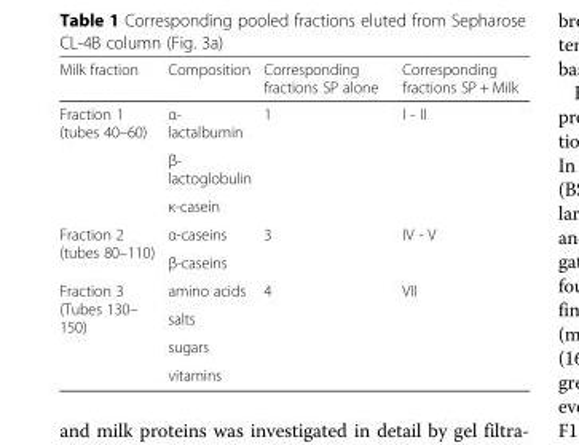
<table><thead><tr><td>Milk fraction</td><td>Composition</td><td>Corresponding fractions SP alone</td><td>Corresponding fractions SP + Milk</td></tr></thead><tbody><tr><td rowspan="3">Fraction 1 (tubes 40–60)</td><td>α- lactalbumin</td><td rowspan="3">1</td><td rowspan="3">I - II</td></tr><tr><td>β- lactoglobulin</td></tr><tr><td>κ-casein</td></tr><tr><td rowspan="2">Fraction 2 (tubes 80–110)</td><td>α-caseins</td><td rowspan="2">3</td><td rowspan="2">IV - V</td></tr><tr><td>β-caseins</td></tr><tr><td rowspan="4">Fraction 3 (Tubes 130– 150)</td><td>amino acids</td><td rowspan="4">4</td><td rowspan="4">VII</td></tr><tr><td>salts</td></tr><tr><td>sugars</td></tr><tr><td>vitamins</td></tr></tbody></table>